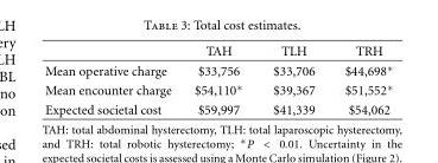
<table><thead><tr><td></td><td>TAH</td><td>TLH</td><td>TRH</td></tr></thead><tbody><tr><td>Mean operative charge</td><td>$33,756</td><td>$33,706</td><td>$44,698∗</td></tr><tr><td>Mean encounter charge</td><td>$54,110∗</td><td>$39,367</td><td>$51,552∗</td></tr><tr><td>Expected societal cost</td><td>$59,997</td><td>$41,339</td><td>$54,062</td></tr></tbody></table>